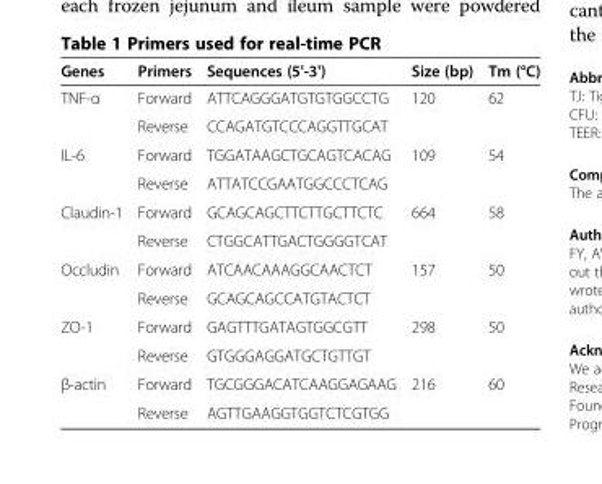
<table><thead><tr><td>Genes</td><td>Primers</td><td>Sequences (5&#x27;-3&#x27;)</td><td>Size (bp)</td><td>Tm (°C)</td></tr></thead><tbody><tr><td rowspan="2">TNF-α</td><td>Forward</td><td>ATTCAGGGATGTGTGGCCTG</td><td>120</td><td>62</td></tr><tr><td>Reverse</td><td>CCAGATGTCCCAGGTTGCAT</td><td></td><td></td></tr><tr><td rowspan="2">IL-6</td><td>Forward</td><td>TGGATAAGCTGCAGTCACAG</td><td>109</td><td>54</td></tr><tr><td>Reverse</td><td>ATTATCCGAATGGCCCTCAG</td><td></td><td></td></tr><tr><td rowspan="2">Claudin-1</td><td>Forward</td><td>GCAGCAGCTTCTTGCTTCTC</td><td>664</td><td>58</td></tr><tr><td>Reverse</td><td>CTGGCATTGACTGGGGTCAT</td><td></td><td></td></tr><tr><td rowspan="2">Occludin</td><td>Forward</td><td>ATCAACAAAGGCAACTCT</td><td>157</td><td>50</td></tr><tr><td>Reverse</td><td>GCAGCAGCCATGTACTCT</td><td></td><td></td></tr><tr><td rowspan="2">ZO-1</td><td>Forward</td><td>GAGTTTGATAGTGGCGTT</td><td>298</td><td>50</td></tr><tr><td>Reverse</td><td>GTGGGAGGATGCTGTTGT</td><td></td><td></td></tr><tr><td rowspan="2">β-actin</td><td>Forward</td><td>TGCGGGACATCAAGGAGAAG</td><td>216</td><td>60</td></tr><tr><td>Reverse</td><td>AGTTGAAGGTGGTCTCGTGG</td><td></td><td></td></tr></tbody></table>